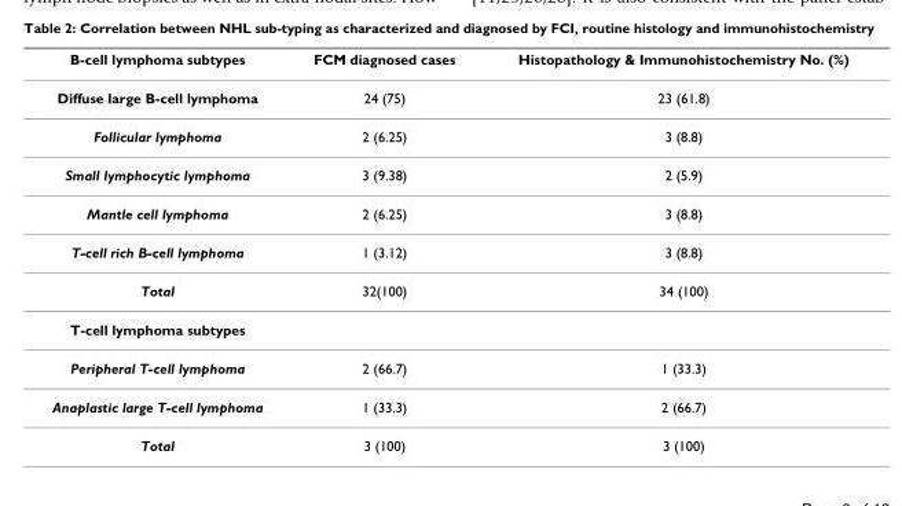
<table><thead><tr><td>B-cell lymphoma subtypes</td><td>FCM diagnosed cases</td><td>Histopathology &amp; Immunohistochemistry No. (%)</td></tr></thead><tbody><tr><td>Diffuse large B-cell lymphoma</td><td>24 (75)</td><td>23 (61.8)</td></tr><tr><td>Follicular lymphoma</td><td>2 (6.25)</td><td>3 (8.8)</td></tr><tr><td>Small lymphocytic lymphoma</td><td>3 (9.38)</td><td>2 (5.9)</td></tr><tr><td>Mantle cell lymphoma</td><td>2 (6.25)</td><td>3 (8.8)</td></tr><tr><td>T-cell rich B-cell lymphoma</td><td>1 (3.12)</td><td>3 (8.8)</td></tr><tr><td>Total</td><td>32(100)</td><td>34 (100)</td></tr><tr><td colspan="3">T-cell lymphoma subtypes</td></tr><tr><td>Peripheral T-cell lymphoma</td><td>2 (66.7)</td><td>1 (33.3)</td></tr><tr><td>Anaplastic large T-cell lymphoma</td><td>1 (33.3)</td><td>2 (66.7)</td></tr><tr><td>Total</td><td>3 (100)</td><td>3 (100)</td></tr></tbody></table>